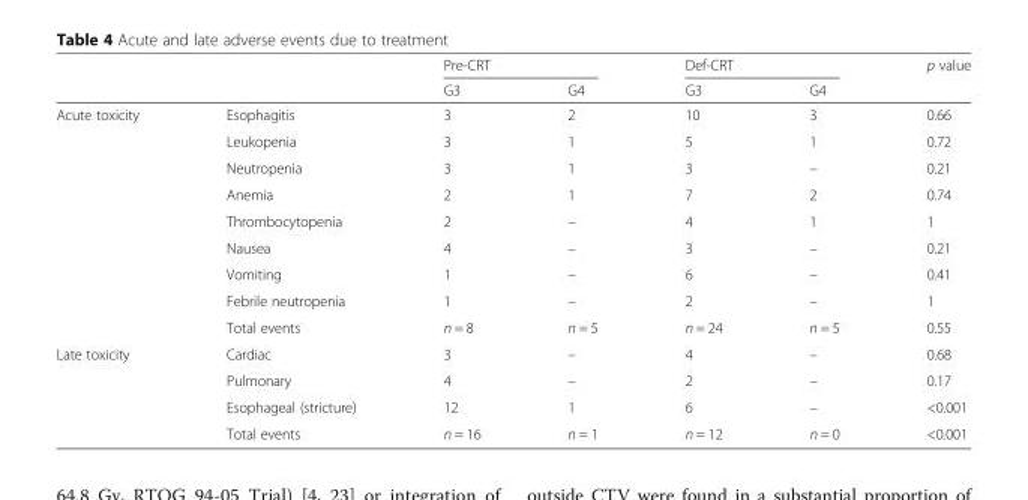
<table><thead><tr><td rowspan="2"></td><td rowspan="2"></td><td colspan="2">Pre-CRT</td><td colspan="2">Def-CRT</td><td rowspan="2">p value</td></tr><tr><td>G3</td><td>G4</td><td>G3</td><td>G4</td></tr></thead><tbody><tr><td rowspan="9">Acute toxicity</td><td>Esophagitis</td><td>3</td><td>2</td><td>10</td><td>3</td><td>0.66</td></tr><tr><td>Leukopenia</td><td>3</td><td>1</td><td>5</td><td>1</td><td>0.72</td></tr><tr><td>Neutropenia</td><td>3</td><td>1</td><td>3</td><td>–</td><td>0.21</td></tr><tr><td>Anemia</td><td>2</td><td>1</td><td>7</td><td>2</td><td>0.74</td></tr><tr><td>Thrombocytopenia</td><td>2</td><td>–</td><td>4</td><td>1</td><td>1</td></tr><tr><td>Nausea</td><td>4</td><td>–</td><td>3</td><td>–</td><td>0.21</td></tr><tr><td>Vomiting</td><td>1</td><td>–</td><td>6</td><td>–</td><td>0.41</td></tr><tr><td>Febrile neutropenia</td><td>1</td><td>–</td><td>2</td><td>–</td><td>1</td></tr><tr><td>Total events</td><td>n = 8</td><td>n = 5</td><td>n = 24</td><td>n = 5</td><td>0.55</td></tr><tr><td rowspan="4">Late toxicity</td><td>Cardiac</td><td>3</td><td>–</td><td>4</td><td>–</td><td>0.68</td></tr><tr><td>Pulmonary</td><td>4</td><td>–</td><td>2</td><td>–</td><td>0.17</td></tr><tr><td>Esophageal (stricture)</td><td>12</td><td>1</td><td>6</td><td>–</td><td>&lt;0.001</td></tr><tr><td>Total events</td><td>n = 16</td><td>n = 1</td><td>n = 12</td><td>n = 0</td><td>&lt;0.001</td></tr></tbody></table>